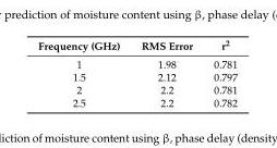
<table><thead><tr><td>Frequency (GHz)</td><td>RMS Error</td><td>r<sup>2</sup></td></tr></thead><tbody><tr><td>1</td><td>1.98</td><td>0.781</td></tr><tr><td>1.5</td><td>2.12</td><td>0.797</td></tr><tr><td>2</td><td>2.2</td><td>0.781</td></tr><tr><td>2.5</td><td>2.2</td><td>0.782</td></tr></tbody></table>